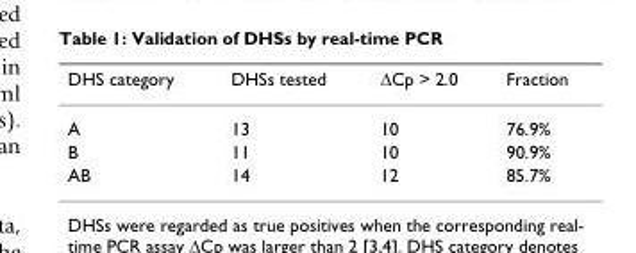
<table><thead><tr><td>DHS category</td><td>DHSs tested</td><td>ΔCp &gt; 2.0</td><td>Fraction</td></tr></thead><tbody><tr><td>A</td><td>13</td><td>10</td><td>76.9%</td></tr><tr><td>B</td><td>11</td><td>10</td><td>90.9%</td></tr><tr><td>AB</td><td>14</td><td>12</td><td>85.7%</td></tr></tbody></table>